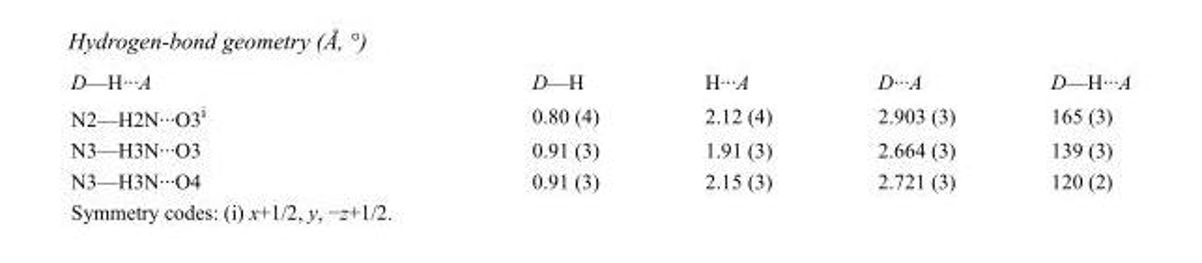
<table><tbody><tr><td>D—H···A</td><td>D—H</td><td>H···A</td><td>D···A</td><td>D—H···A</td></tr><tr><td>N2—H2N···O3<sup>i</sup></td><td>0.80 (4)</td><td>2.12 (4)</td><td>2.903 (3)</td><td>165 (3)</td></tr><tr><td>N3—H3N···O3</td><td>0.91 (3)</td><td>1.91 (3)</td><td>2.664 (3)</td><td>139 (3)</td></tr><tr><td>N3—H3N···O4</td><td>0.91 (3)</td><td>2.15 (3)</td><td>2.721 (3)</td><td>120 (2)</td></tr></tbody></table>